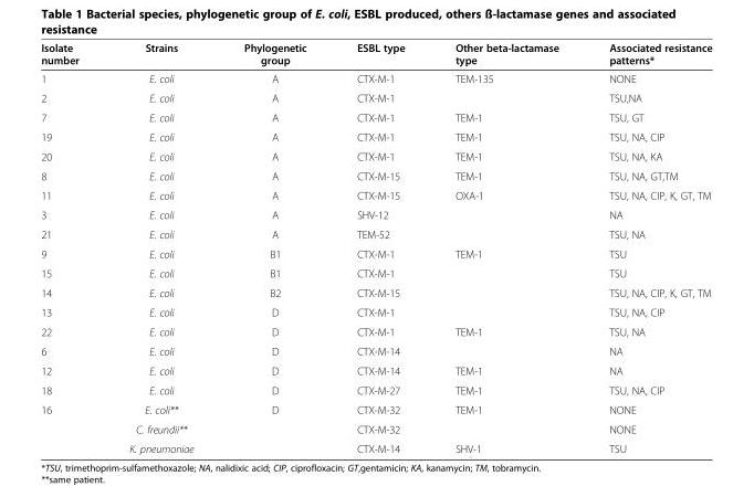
<table><thead><tr><td>Isolate number</td><td>Strains</td><td>Phylogenetic group</td><td>ESBL type</td><td>Other beta-lactamase type</td><td>Associated resistance patterns*</td></tr></thead><tbody><tr><td>1</td><td>E. coli</td><td>A</td><td>CTX-M-1</td><td>TEM-135</td><td>NONE</td></tr><tr><td>2</td><td>E. coli</td><td>A</td><td>CTX-M-1</td><td></td><td>TSU,NA</td></tr><tr><td>7</td><td>E. coli</td><td>A</td><td>CTX-M-1</td><td>TEM-1</td><td>TSU, GT</td></tr><tr><td>19</td><td>E. coli</td><td>A</td><td>CTX-M-1</td><td>TEM-1</td><td>TSU, NA, CIP</td></tr><tr><td>20</td><td>E. coli</td><td>A</td><td>CTX-M-1</td><td>TEM-1</td><td>TSU, NA, KA</td></tr><tr><td>8</td><td>E. coli</td><td>A</td><td>CTX-M-15</td><td>TEM-1</td><td>TSU, NA, GT,TM</td></tr><tr><td>11</td><td>E. coli</td><td>A</td><td>CTX-M-15</td><td>OXA-1</td><td>TSU, NA, CIP, K, GT, TM</td></tr><tr><td>3</td><td>E. coli</td><td>A</td><td>SHV-12</td><td></td><td>NA</td></tr><tr><td>21</td><td>E. coli</td><td>A</td><td>TEM-52</td><td></td><td>TSU, NA</td></tr><tr><td>9</td><td>E. coli</td><td>B1</td><td>CTX-M-1</td><td>TEM-1</td><td>TSU</td></tr><tr><td>15</td><td>E. coli</td><td>B1</td><td>CTX-M-1</td><td></td><td>TSU</td></tr><tr><td>14</td><td>E. coli</td><td>B2</td><td>CTX-M-15</td><td></td><td>TSU, NA, CIP, K, GT, TM</td></tr><tr><td>13</td><td>E. coli</td><td>D</td><td>CTX-M-1</td><td></td><td>TSU, NA, CIP</td></tr><tr><td>22</td><td>E. coli</td><td>D</td><td>CTX-M-1</td><td>TEM-1</td><td>TSU, NA</td></tr><tr><td>6</td><td>E. coli</td><td>D</td><td>CTX-M-14</td><td></td><td>NA</td></tr><tr><td>12</td><td>E. coli</td><td>D</td><td>CTX-M-14</td><td>TEM-1</td><td>NA</td></tr><tr><td>18</td><td>E. coli</td><td>D</td><td>CTX-M-27</td><td>TEM-1</td><td>TSU, NA, CIP</td></tr><tr><td rowspan="3">16</td><td>E. coli**</td><td>D</td><td>CTX-M-32</td><td>TEM-1</td><td>NONE</td></tr><tr><td>C. freundii**</td><td></td><td>CTX-M-32</td><td></td><td>NONE</td></tr><tr><td>K. pneumoniae</td><td></td><td>CTX-M-14</td><td>SHV-1</td><td>TSU</td></tr></tbody></table>